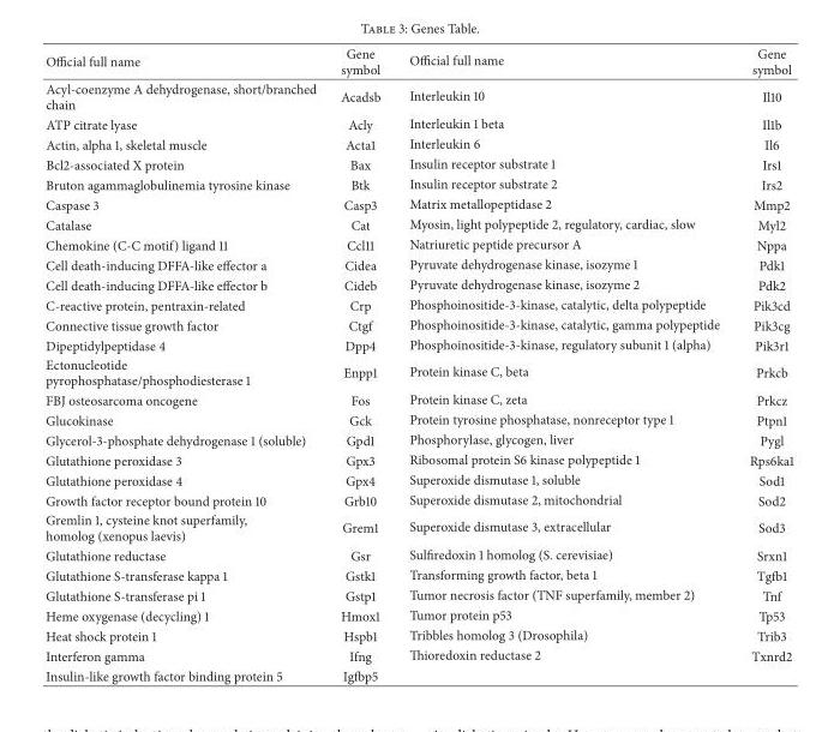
<table><thead><tr><td>Official full name</td><td>Gene symbol</td><td>Official full name</td><td>Gene symbol</td></tr></thead><tbody><tr><td>Acyl-coenzyme A dehydrogenase, short/branched chain</td><td>Acadsb</td><td>Interleukin 10</td><td>Il10</td></tr><tr><td>ATP citrate lyase</td><td>Acly</td><td>Interleukin 1 beta</td><td>Il1b</td></tr><tr><td>Actin, alpha 1, skeletal muscle</td><td>Acta1</td><td>Interleukin 6</td><td>Il6</td></tr><tr><td>Bcl2-associated X protein</td><td>Bax</td><td>Insulin receptor substrate 1</td><td>Irs1</td></tr><tr><td>Bruton agammaglobulinemia tyrosine kinase</td><td>Btk</td><td>Insulin receptor substrate 2</td><td>Irs2</td></tr><tr><td>Caspase 3</td><td>Casp3</td><td>Matrix metallopeptidase 2</td><td>Mmp2</td></tr><tr><td>Catalase</td><td>Cat</td><td>Myosin, light polypeptide 2, regulatory, cardiac, slow</td><td>Myl2</td></tr><tr><td>Chemokine (C-C motif) ligand 11</td><td>Ccl11</td><td>Natriuretic peptide precursor A</td><td>Nppa</td></tr><tr><td>Cell death-inducing DFFA-like effector a</td><td>Cidea</td><td>Pyruvate dehydrogenase kinase, isozyme 1</td><td>Pdk1</td></tr><tr><td>Cell death-inducing DFFA-like effector b</td><td>Cideb</td><td>Pyruvate dehydrogenase kinase, isozyme 2</td><td>Pdk2</td></tr><tr><td>C-reactive protein, pentraxin-related</td><td>Crp</td><td>Phosphoinositide-3-kinase, catalytic, delta polypeptide</td><td>Pik3cd</td></tr><tr><td>Connective tissue growth factor</td><td>Ctgf</td><td>Phosphoinositide-3-kinase, catalytic, gamma polypeptide</td><td>Pik3cg</td></tr><tr><td>Dipeptidylpeptidase 4</td><td>Dpp4</td><td>Phosphoinositide-3-kinase, regulatory subunit 1 (alpha)</td><td>Pik3r1</td></tr><tr><td>Ectonucleotide pyrophosphatase/phosphodiesterase 1</td><td>Enpp1</td><td>Protein kinase C, beta</td><td>Prkcb</td></tr><tr><td>FBJ osteosarcoma oncogene</td><td>Fos</td><td>Protein kinase C, zeta</td><td>Prkcz</td></tr><tr><td>Glucokinase</td><td>Gck</td><td>Protein tyrosine phosphatase, nonreceptor type 1</td><td>Ptpn1</td></tr><tr><td>Glycerol-3-phosphate dehydrogenase 1 (soluble)</td><td>Gpd1</td><td>Phosphorylase, glycogen, liver</td><td>Pygl</td></tr><tr><td>Glutathione peroxidase 3</td><td>Gpx3</td><td>Ribosomal protein S6 kinase polypeptide 1</td><td>Rps6ka1</td></tr><tr><td>Glutathione peroxidase 4</td><td>Gpx4</td><td>Superoxide dismutase 1, soluble</td><td>Sod1</td></tr><tr><td>Growth factor receptor bound protein 10</td><td>Grb10</td><td>Superoxide dismutase 2, mitochondrial</td><td>Sod2</td></tr><tr><td>Gremlin 1, cysteine knot superfamily, homolog (xenopus laevis)</td><td>Grem1</td><td>Superoxide dismutase 3, extracellular</td><td>Sod3</td></tr><tr><td>Glutathione reductase</td><td>Gsr</td><td>Sulfiredoxin 1 homolog (S. cerevisiae)</td><td>Srxn1</td></tr><tr><td>Glutathione S-transferase kappa 1</td><td>Gstk1</td><td>Transforming growth factor, beta 1</td><td>Tgfb1</td></tr><tr><td>Glutathione S-transferase pi 1</td><td>Gstp1</td><td>Tumor necrosis factor (TNF superfamily, member 2)</td><td>Tnf</td></tr><tr><td>Heme oxygenase (decycling) 1</td><td>Hmox1</td><td>Tumor protein p53</td><td>Tp53</td></tr><tr><td>Heat shock protein 1</td><td>Hspb1</td><td>Tribbles homolog 3 (Drosophila)</td><td>Trib3</td></tr><tr><td>Interferon gamma</td><td>Ifng</td><td>Thioredoxin reductase 2</td><td>Txnrd2</td></tr><tr><td>Insulin-like growth factor binding protein 5</td><td>Igfbp5</td><td></td><td></td></tr></tbody></table>